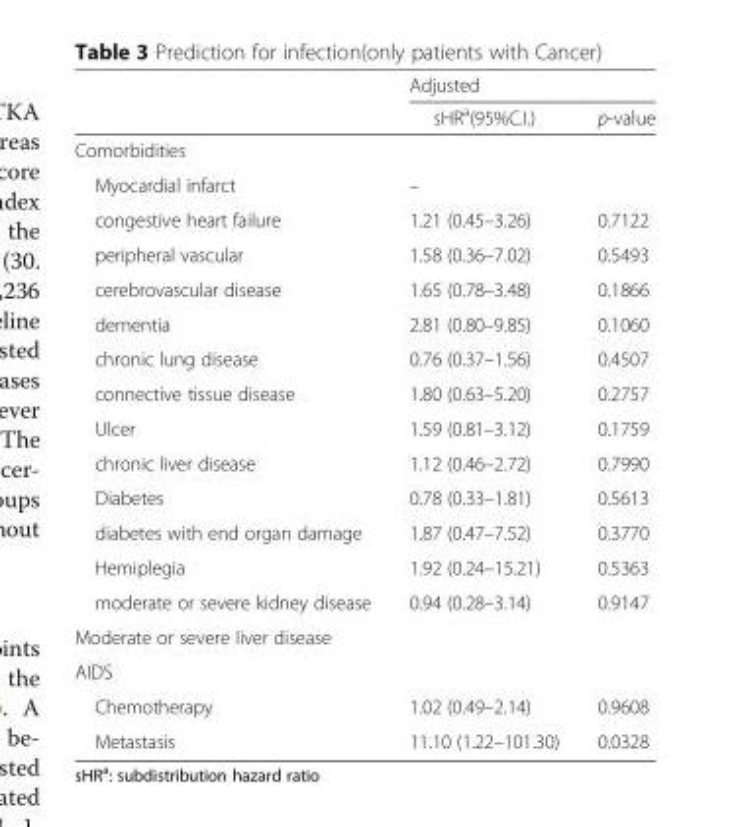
<table><thead><tr><td rowspan="2"></td><td colspan="2">Adjusted</td></tr><tr><td>sHR<sup>a</sup>(95%C.I.)</td><td>p-value</td></tr></thead><tbody><tr><td colspan="3">Comorbidities</td></tr><tr><td>Myocardial infarct</td><td>–</td><td></td></tr><tr><td>congestive heart failure</td><td>1.21 (0.45–3.26)</td><td>0.7122</td></tr><tr><td>peripheral vascular</td><td>1.58 (0.36–7.02)</td><td>0.5493</td></tr><tr><td>cerebrovascular disease</td><td>1.65 (0.78–3.48)</td><td>0.1866</td></tr><tr><td>dementia</td><td>2.81 (0.80–9.85)</td><td>0.1060</td></tr><tr><td>chronic lung disease</td><td>0.76 (0.37–1.56)</td><td>0.4507</td></tr><tr><td>connective tissue disease</td><td>1.80 (0.63–5.20)</td><td>0.2757</td></tr><tr><td>Ulcer</td><td>1.59 (0.81–3.12)</td><td>0.1759</td></tr><tr><td>chronic liver disease</td><td>1.12 (0.46–2.72)</td><td>0.7990</td></tr><tr><td>Diabetes</td><td>0.78 (0.33–1.81)</td><td>0.5613</td></tr><tr><td>diabetes with end organ damage</td><td>1.87 (0.47–7.52)</td><td>0.3770</td></tr><tr><td>Hemiplegia</td><td>1.92 (0.24–15.21)</td><td>0.5363</td></tr><tr><td>moderate or severe kidney disease</td><td>0.94 (0.28–3.14)</td><td>0.9147</td></tr><tr><td colspan="3">Moderate or severe liver disease</td></tr><tr><td colspan="3">AIDS</td></tr><tr><td>Chemotherapy</td><td>1.02 (0.49–2.14)</td><td>0.9608</td></tr><tr><td>Metastasis</td><td>11.10 (1.22–101.30)</td><td>0.0328</td></tr></tbody></table>